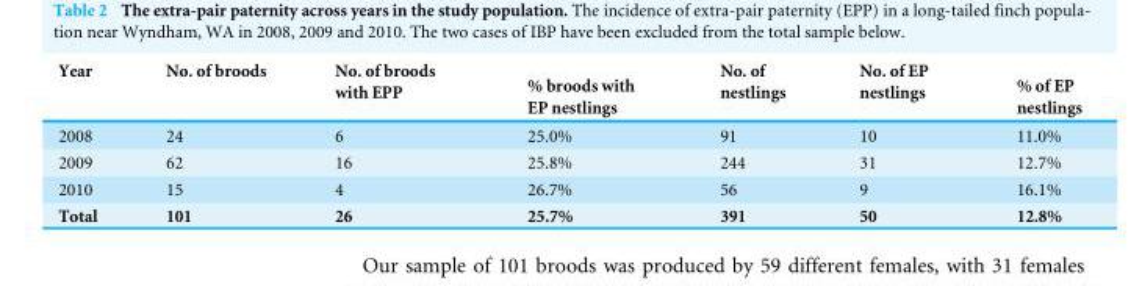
<table><thead><tr><td>Year</td><td>No. of broods</td><td>No. of broods with EPP</td><td>% broods with EP nestlings</td><td>No. of nestlings</td><td>No. of EP nestlings</td><td>% of EP nestlings</td></tr></thead><tbody><tr><td>2008</td><td>24</td><td>6</td><td>25.0%</td><td>91</td><td>10</td><td>11.0%</td></tr><tr><td>2009</td><td>62</td><td>16</td><td>25.8%</td><td>244</td><td>31</td><td>12.7%</td></tr><tr><td>2010</td><td>15</td><td>4</td><td>26.7%</td><td>56</td><td>9</td><td>16.1%</td></tr><tr><td>Total</td><td>101</td><td>26</td><td>25.7%</td><td>391</td><td>50</td><td>12.8%</td></tr></tbody></table>